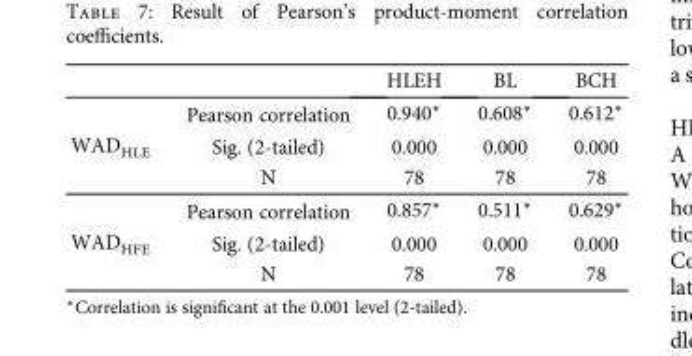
<table><thead><tr><td></td><td></td><td>HLEH</td><td>BL</td><td>BCH</td></tr></thead><tbody><tr><td rowspan="3">WAD<sub>HLE</sub></td><td>Pearson correlation</td><td>0.940∗</td><td>0.608∗</td><td>0.612∗</td></tr><tr><td>Sig. (2-tailed)</td><td>0.000</td><td>0.000</td><td>0.000</td></tr><tr><td>N</td><td>78</td><td>78</td><td>78</td></tr><tr><td rowspan="3">WAD<sub>HFE</sub></td><td>Pearson correlation</td><td>0.857∗</td><td>0.511∗</td><td>0.629∗</td></tr><tr><td>Sig. (2-tailed)</td><td>0.000</td><td>0.000</td><td>0.000</td></tr><tr><td>N</td><td>78</td><td>78</td><td>78</td></tr></tbody></table>